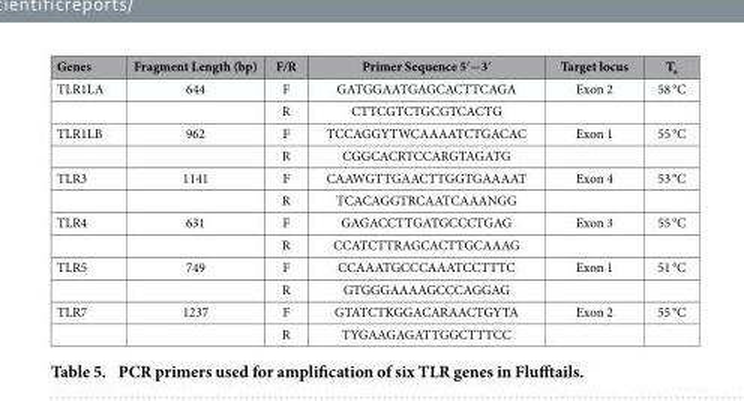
<table><thead><tr><td>Genes</td><td>Fragment Length (bp)</td><td>F/R</td><td>Primer Sequence 5ʹ−3ʹ</td><td>Target locus</td><td>T<sub>a</sub></td></tr></thead><tbody><tr><td rowspan="2">TLR1LA</td><td>644</td><td>F</td><td>GATGGAATGAGCACTTCAGA</td><td>Exon 2</td><td>58 °C</td></tr><tr><td></td><td>R</td><td>CTTCGTCTGCGTCACTG</td><td></td><td></td></tr><tr><td rowspan="2">TLR1LB</td><td>962</td><td>F</td><td>TCCAGGYTWCAAAATCTGACAC</td><td>Exon 1</td><td>55 °C</td></tr><tr><td></td><td>R</td><td>CGGCACRTCCARGTAGATG</td><td></td><td></td></tr><tr><td rowspan="2">TLR3</td><td>1141</td><td>F</td><td>CAAWGTTGAACTTGGTGAAAAT</td><td>Exon 4</td><td>53 °C</td></tr><tr><td></td><td>R</td><td>TCACAGGTRCAATCAAANGG</td><td></td><td></td></tr><tr><td rowspan="2">TLR4</td><td>631</td><td>F</td><td>GAGACCTTGATGCCCTGAG</td><td>Exon 3</td><td>55 °C</td></tr><tr><td></td><td>R</td><td>CCATCTTRAGCACTTGCAAAG</td><td></td><td></td></tr><tr><td rowspan="2">TLR5</td><td>749</td><td>F</td><td>CCAAATGCCCAAATCCTTTC</td><td>Exon 1</td><td>51 °C</td></tr><tr><td></td><td>R</td><td>GTGGGAAAAGCCCAGGAG</td><td></td><td></td></tr><tr><td rowspan="2">TLR7</td><td>1237</td><td>F</td><td>GTATCTKGGACARAACTGYTA</td><td>Exon 2</td><td>55 °C</td></tr><tr><td></td><td>R</td><td>TYGAAGAGATTGGCTTTCC</td><td></td><td></td></tr></tbody></table>